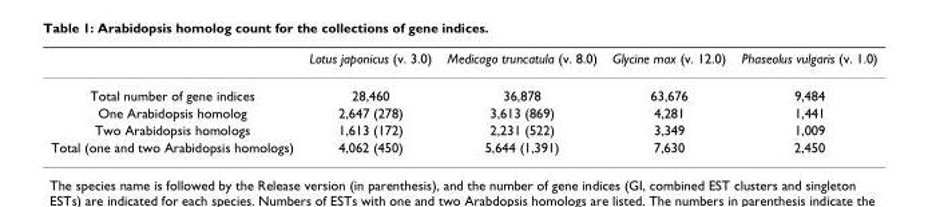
<table><thead><tr><td></td><td>Lotus japonicus (v. 3.0)</td><td>Medicago truncatula (v. 8.0)</td><td>Glycine max (v. 12.0)</td><td>Phaseolus vulgaris (v. 1.0)</td></tr></thead><tbody><tr><td>Total number of gene indices</td><td>28,460</td><td>36,878</td><td>63,676</td><td>9,484</td></tr><tr><td>One Arabidopsis homolog</td><td>2,647 (278)</td><td>3,613 (869)</td><td>4,281</td><td>1,441</td></tr><tr><td>Two Arabidopsis homologs</td><td>1,613 (172)</td><td>2,231 (522)</td><td>3,349</td><td>1,009</td></tr><tr><td>Total (one and two Arabidopsis homologs)</td><td>4,062 (450)</td><td>5,644 (1,391)</td><td>7,630</td><td>2,450</td></tr></tbody></table>